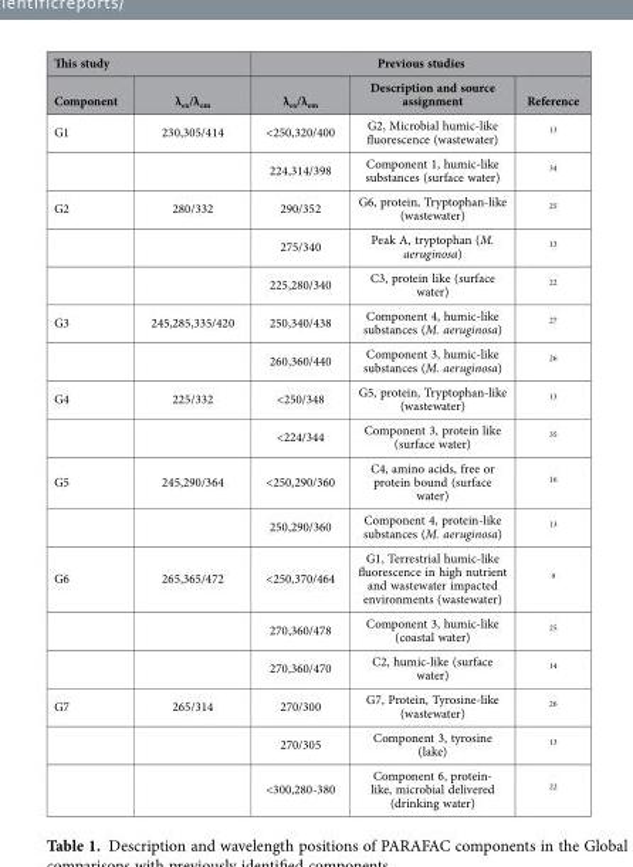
<table><thead><tr><td colspan="2">This study</td><td colspan="3">Previous studies</td></tr><tr><td>Component</td><td>λ<sub>ex</sub>/λ<sub>em</sub></td><td>λ<sub>ex</sub>/λ<sub>em</sub></td><td>Description and source assignment</td><td>Reference</td></tr></thead><tbody><tr><td rowspan="2">G1</td><td>230,305/414</td><td>&lt;250,320/400</td><td>G2, Microbial humic-like fluorescence (wastewater)</td><td>13</td></tr><tr><td></td><td>224,314/398</td><td>Component 1, humic-like substances (surface water)</td><td>34</td></tr><tr><td rowspan="3">G2</td><td>280/332</td><td>290/352</td><td>G6, protein, Tryptophan-like (wastewater)</td><td>25</td></tr><tr><td></td><td>275/340</td><td>Peak A, tryptophan (M. aeruginosa)</td><td>13</td></tr><tr><td></td><td>225,280/340</td><td>C3, protein like (surface water)</td><td>22</td></tr><tr><td rowspan="2">G3</td><td>245,285,335/420</td><td>250,340/438</td><td>Component 4, humic-like substances (M. aeruginosa)</td><td>27</td></tr><tr><td></td><td>260,360/440</td><td>Component 3, humic-like substances (M. aeruginosa)</td><td>26</td></tr><tr><td rowspan="2">G4</td><td>225/332</td><td>&lt;250/348</td><td>G5, protein, Tryptophan-like (wastewater)</td><td>13</td></tr><tr><td></td><td>&lt;224/344</td><td>Component 3, protein like (surface water)</td><td>35</td></tr><tr><td rowspan="2">G5</td><td>245,290/364</td><td>&lt;250,290/360</td><td>C4, amino acids, free or protein bound (surface water)</td><td>16</td></tr><tr><td></td><td>250,290/360</td><td>Component 4, protein-like substances (M. aeruginosa)</td><td>13</td></tr><tr><td rowspan="3">G6</td><td>265,365/472</td><td>&lt;250,370/464</td><td>G1, Terrestrial humic-like fluorescence in high nutrient and wastewater impacted environments (wastewater)</td><td>9</td></tr><tr><td></td><td>270,360/478</td><td>Component 3, humic-like (coastal water)</td><td>25</td></tr><tr><td></td><td>270,360/470</td><td>C2, humic-like (surface water)</td><td>14</td></tr><tr><td rowspan="3">G7</td><td>265/314</td><td>270/300</td><td>G7, Protein, Tyrosine-like (wastewater)</td><td>26</td></tr><tr><td></td><td>270/305</td><td>Component 3, tyrosine (lake)</td><td>13</td></tr><tr><td></td><td>&lt;300,280-380</td><td>Component 6, protein- like, microbial delivered (drinking water)</td><td>22</td></tr></tbody></table>